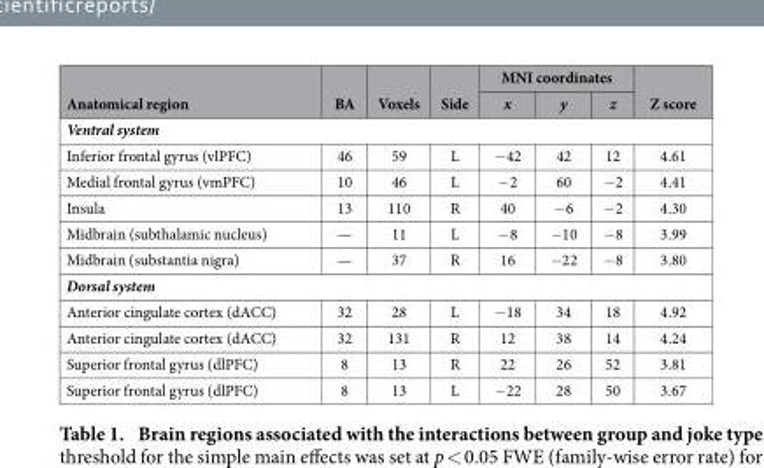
<table><thead><tr><td rowspan="2">Anatomical region</td><td rowspan="2">BA</td><td rowspan="2">Voxels</td><td rowspan="2">Side</td><td colspan="3">MNI coordinates</td><td rowspan="2">Z score</td></tr><tr><td>x</td><td>y</td><td>z</td></tr></thead><tbody><tr><td colspan="8">Ventral system</td></tr><tr><td>Inferior frontal gyrus (vlPFC)</td><td>46</td><td>59</td><td>L</td><td>− 42</td><td>42</td><td>12</td><td>4.61</td></tr><tr><td>Medial frontal gyrus (vmPFC)</td><td>10</td><td>46</td><td>L</td><td>− 2</td><td>60</td><td>− 2</td><td>4.41</td></tr><tr><td>Insula</td><td>13</td><td>110</td><td>R</td><td>40</td><td>− 6</td><td>− 2</td><td>4.30</td></tr><tr><td>Midbrain (subthalamic nucleus)</td><td>—</td><td>11</td><td>L</td><td>− 8</td><td>− 10</td><td>− 8</td><td>3.99</td></tr><tr><td>Midbrain (substantia nigra)</td><td>—</td><td>37</td><td>R</td><td>16</td><td>− 22</td><td>− 8</td><td>3.80</td></tr><tr><td colspan="8">Dorsal system</td></tr><tr><td>Anterior cingulate cortex (dACC)</td><td>32</td><td>28</td><td>L</td><td>− 18</td><td>34</td><td>18</td><td>4.92</td></tr><tr><td>Anterior cingulate cortex (dACC)</td><td>32</td><td>131</td><td>R</td><td>12</td><td>38</td><td>14</td><td>4.24</td></tr><tr><td>Superior frontal gyrus (dlPFC)</td><td>8</td><td>13</td><td>R</td><td>22</td><td>26</td><td>52</td><td>3.81</td></tr><tr><td>Superior frontal gyrus (dlPFC)</td><td>8</td><td>13</td><td>L</td><td>− 22</td><td>28</td><td>50</td><td>3.67</td></tr></tbody></table>